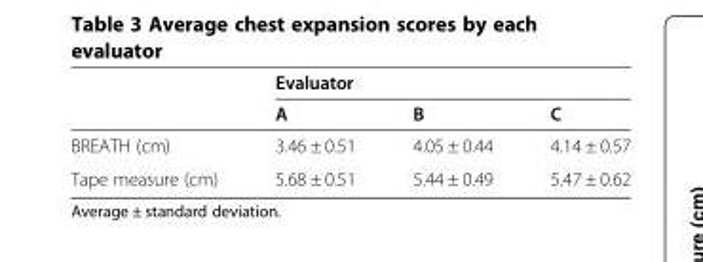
<table><thead><tr><td rowspan="2"></td><td colspan="3">Evaluator</td></tr><tr><td>A</td><td>B</td><td>C</td></tr></thead><tbody><tr><td>BREATH (cm)</td><td>3.46 ± 0.51</td><td>4.05 ± 0.44</td><td>4.14 ± 0.57</td></tr><tr><td>Tape measure (cm)</td><td>5.68 ± 0.51</td><td>5.44 ± 0.49</td><td>5.47 ± 0.62</td></tr></tbody></table>